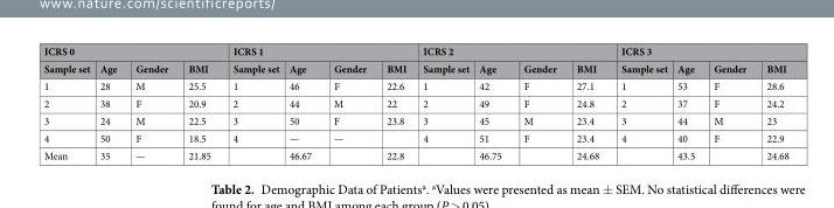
<table><thead><tr><td colspan="4">ICRS 0</td><td colspan="4">ICRS 1</td><td colspan="4">ICRS 2</td><td colspan="4">ICRS 3</td></tr><tr><td>Sample set</td><td>Age</td><td>Gender</td><td>BMI</td><td>Sample set</td><td>Age</td><td>Gender</td><td>BMI</td><td>Sample set</td><td>Age</td><td>Gender</td><td>BMI</td><td>Sample set</td><td>Age</td><td>Gender</td><td>BMI</td></tr></thead><tbody><tr><td>1</td><td>28</td><td>M</td><td>25.5</td><td>1</td><td>46</td><td>F</td><td>22.6</td><td>1</td><td>42</td><td>F</td><td>27.1</td><td>1</td><td>53</td><td>F</td><td>28.6</td></tr><tr><td>2</td><td>38</td><td>F</td><td>20.9</td><td>2</td><td>44</td><td>M</td><td>22</td><td>2</td><td>49</td><td>F</td><td>24.8</td><td>2</td><td>37</td><td>F</td><td>24.2</td></tr><tr><td>3</td><td>24</td><td>M</td><td>22.5</td><td>3</td><td>50</td><td>F</td><td>23.8</td><td>3</td><td>45</td><td>M</td><td>23.4</td><td>3</td><td>44</td><td>M</td><td>23</td></tr><tr><td>4</td><td>50</td><td>F</td><td>18.5</td><td>4</td><td>—</td><td>—</td><td></td><td>4</td><td>51</td><td>F</td><td>23.4</td><td>4</td><td>40</td><td>F</td><td>22.9</td></tr><tr><td>Mean</td><td>35</td><td>—</td><td>21.85</td><td></td><td>46.67</td><td></td><td>22.8</td><td></td><td>46.75</td><td></td><td>24.68</td><td></td><td>43.5</td><td></td><td>24.68</td></tr></tbody></table>